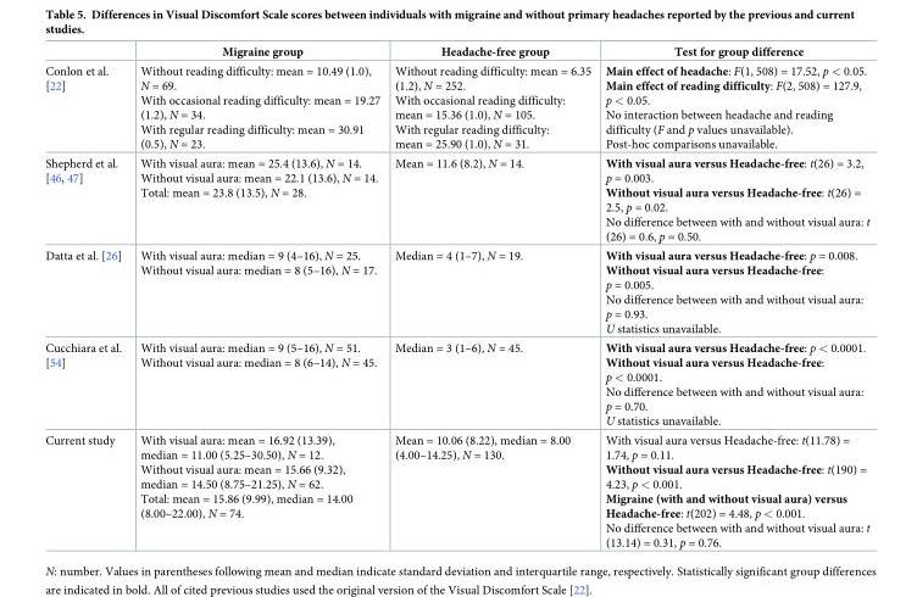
<table><thead><tr><td></td><td>Migraine group</td><td>Headache-free group</td><td>Test for group difference</td></tr></thead><tbody><tr><td>Conlon et al. [22]</td><td>Without reading difficulty: mean = 10.49 (1.0), N = 69. With occasional reading difficulty: mean = 19.27 (1.2), N = 34. With regular reading difficulty: mean = 30.91 (0.5), N = 23.</td><td>Without reading difficulty: mean = 6.35 (1.2), N = 252. With occasional reading difficulty: mean = 15.36 (1.0), N = 105. With regular reading difficulty: mean = 25.90 (1.0), N = 31.</td><td>Main effect of headache: F(1, 508) = 17.52, p &lt; 0.05. Main effect of reading difficulty: F(2, 508) = 127.9, p &lt; 0.05. No interaction between headache and reading difficulty (F and p values unavailable). Post-hoc comparisons unavailable.</td></tr><tr><td>Shepherd et al. [46, 47]</td><td>With visual aura: mean = 25.4 (13.6), N = 14. Without visual aura: mean = 22.1 (13.6), N = 14. Total: mean = 23.8 (13.5), N = 28.</td><td>Mean = 11.6 (8.2), N = 14.</td><td>With visual aura versus Headache-free: t(26) = 3.2, p = 0.003. Without visual aura versus Headache-free: t(26) = 2.5, p = 0.02. No difference between with and without visual aura: t (26) = 0.6, p = 0.50.</td></tr><tr><td>Datta et al. [26]</td><td>With visual aura: median = 9 (4–16), N = 25. Without visual aura: median = 8 (5–16), N = 17.</td><td>Median = 4 (1–7), N = 19.</td><td>With visual aura versus Headache-free: p = 0.008. Without visual aura versus Headache-free: p = 0.005. No difference between with and without visual aura: p = 0.93. U statistics unavailable.</td></tr><tr><td>Cucchiara et al. [54]</td><td>With visual aura: median = 9 (5–16), N = 51. Without visual aura: median = 8 (6–14), N = 45.</td><td>Median = 3 (1–6), N = 45.</td><td>With visual aura versus Headache-free: p &lt; 0.0001. Without visual aura versus Headache-free: p &lt; 0.0001. No difference between with and without visual aura: p = 0.70. U statistics unavailable.</td></tr><tr><td>Current study</td><td>With visual aura: mean = 16.92 (13.39), median = 11.00 (5.25–30.50), N = 12. Without visual aura: mean = 15.66 (9.32), median = 14.50 (8.75–21.25), N = 62. Total: mean = 15.86 (9.99), median = 14.00 (8.00–22.00), N = 74.</td><td>Mean = 10.06 (8.22), median = 8.00 (4.00–14.25), N = 130.</td><td>With visual aura versus Headache-free: t(11.78) = 1.74, p = 0.11. Without visual aura versus Headache-free: t(190) = 4.23, p &lt; 0.001. Migraine (with and without visual aura) versus Headache-free: t(202) = 4.48, p &lt; 0.001. No difference between with and without visual aura: t (13.14) = 0.31, p = 0.76.</td></tr></tbody></table>